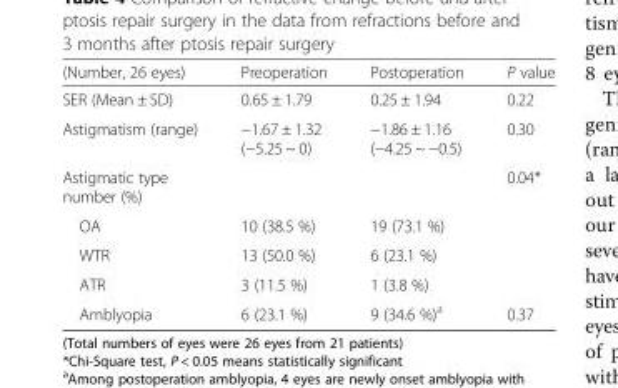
<table><thead><tr><td>(Number, 26 eyes)</td><td>Preoperation</td><td>Postoperation</td><td>P value</td></tr></thead><tbody><tr><td>SER (Mean ± SD)</td><td>0.65 ± 1.79</td><td>0.25 ± 1.94</td><td>0.22</td></tr><tr><td>Astigmatism (range)</td><td>−1.67 ± 1.32 (−5.25 ~ 0)</td><td>−1.86 ± 1.16 (−4.25 ~ −0.5)</td><td>0.30</td></tr><tr><td>Astigmatic type number (%)</td><td></td><td></td><td>0.04*</td></tr><tr><td>OA</td><td>10 (38.5 %)</td><td>19 (73.1 %)</td><td></td></tr><tr><td>WTR</td><td>13 (50.0 %)</td><td>6 (23.1 %)</td><td></td></tr><tr><td>ATR</td><td>3 (11.5 %)</td><td>1 (3.8 %)</td><td></td></tr><tr><td>Amblyopia</td><td>6 (23.1 %)</td><td>9 (34.6 %)<sup>a</sup></td><td>0.37</td></tr></tbody></table>